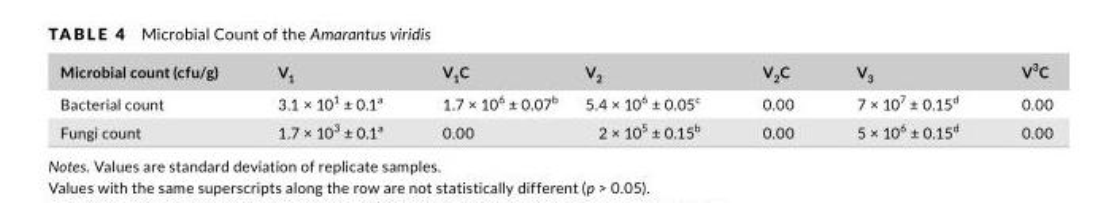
<table><thead><tr><td>Microbial count (cfu/g)</td><td>V<sub>1</sub></td><td>V<sub>1</sub>C</td><td>V<sub>2</sub></td><td>V<sub>2</sub>C</td><td>V<sub>3</sub></td><td>V<sup>3</sup>C</td></tr></thead><tbody><tr><td>Bacterial count</td><td>3.1 × 10<sup>1</sup> ± 0.1<sup>a</sup></td><td>1.7 × 10<sup>6</sup> ± 0.07<sup>b</sup></td><td>5.4 × 10<sup>6</sup> ± 0.05<sup>c</sup></td><td>0.00</td><td>7 × 10<sup>7</sup> ± 0.15<sup>d</sup></td><td>0.00</td></tr><tr><td>Fungi count</td><td>1.7 × 10<sup>3</sup> ± 0.1<sup>a</sup></td><td>0.00</td><td>2 × 10<sup>5</sup> ± 0.15<sup>b</sup></td><td>0.00</td><td>5 × 10<sup>6</sup> ± 0.15<sup>d</sup></td><td>0.00</td></tr></tbody></table>